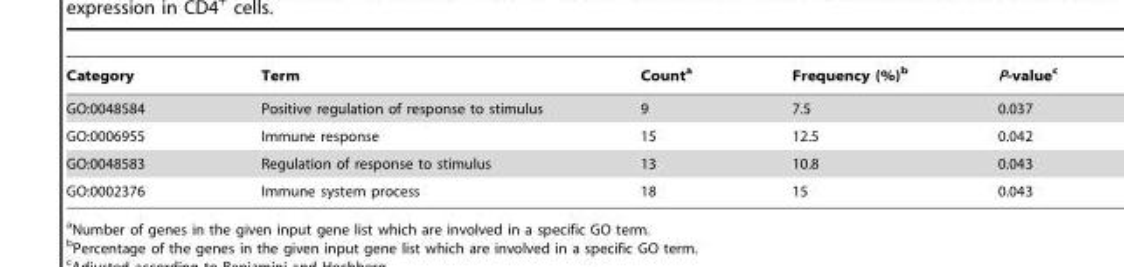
<table><thead><tr><td>Category</td><td>Term</td><td>Count<sup>a</sup></td><td>Frequency (%)<sup>b</sup></td><td>P-value<sup>c</sup></td></tr></thead><tbody><tr><td>GO:0048584</td><td>Positive regulation of response to stimulus</td><td>9</td><td>7.5</td><td>0.037</td></tr><tr><td>GO:0006955</td><td>Immune response</td><td>15</td><td>12.5</td><td>0.042</td></tr><tr><td>GO:0048583</td><td>Regulation of response to stimulus</td><td>13</td><td>10.8</td><td>0.043</td></tr><tr><td>GO:0002376</td><td>Immune system process</td><td>18</td><td>15</td><td>0.043</td></tr></tbody></table>